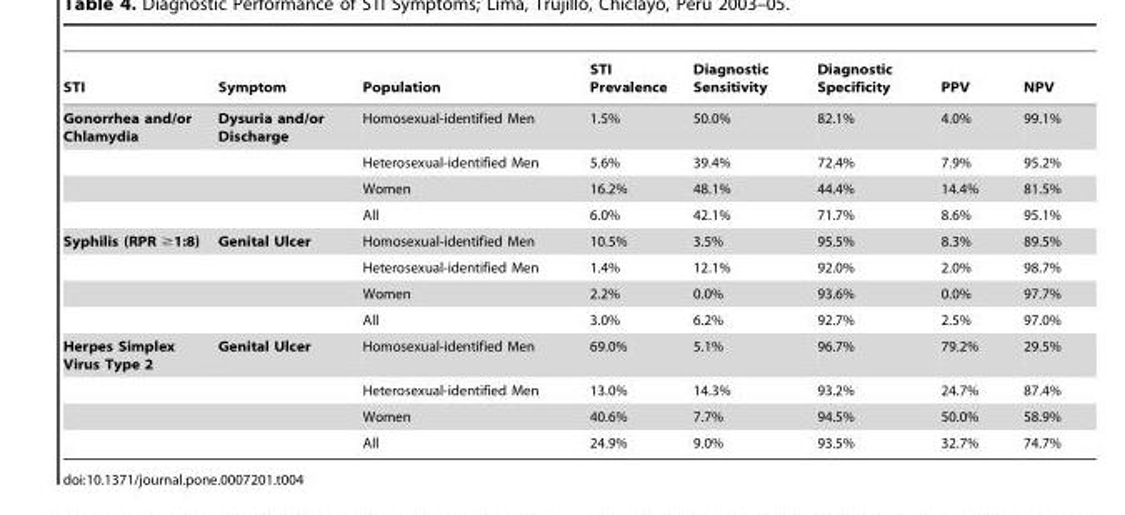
<table><thead><tr><td>STI</td><td>Symptom</td><td>Population</td><td>STI Prevalence</td><td>Diagnostic Sensitivity</td><td>Diagnostic Specificity</td><td>PPV</td><td>NPV</td></tr></thead><tbody><tr><td rowspan="4">Gonorrhea and/or Chlamydia</td><td>Dysuria and/or Discharge</td><td>Homosexual-identified Men</td><td>1.5%</td><td>50.0%</td><td>82.1%</td><td>4.0%</td><td>99.1%</td></tr><tr><td></td><td>Heterosexual-identified Men</td><td>5.6%</td><td>39.4%</td><td>72.4%</td><td>7.9%</td><td>95.2%</td></tr><tr><td></td><td>Women</td><td>16.2%</td><td>48.1%</td><td>44.4%</td><td>14.4%</td><td>81.5%</td></tr><tr><td></td><td>All</td><td>6.0%</td><td>42.1%</td><td>71.7%</td><td>8.6%</td><td>95.1%</td></tr><tr><td rowspan="4">Syphilis (RPR ≥1:8)</td><td>Genital Ulcer</td><td>Homosexual-identified Men</td><td>10.5%</td><td>3.5%</td><td>95.5%</td><td>8.3%</td><td>89.5%</td></tr><tr><td></td><td>Heterosexual-identified Men</td><td>1.4%</td><td>12.1%</td><td>92.0%</td><td>2.0%</td><td>98.7%</td></tr><tr><td></td><td>Women</td><td>2.2%</td><td>0.0%</td><td>93.6%</td><td>0.0%</td><td>97.7%</td></tr><tr><td></td><td>All</td><td>3.0%</td><td>6.2%</td><td>92.7%</td><td>2.5%</td><td>97.0%</td></tr><tr><td rowspan="4">Herpes Simplex Virus Type 2</td><td>Genital Ulcer</td><td>Homosexual-identified Men</td><td>69.0%</td><td>5.1%</td><td>96.7%</td><td>79.2%</td><td>29.5%</td></tr><tr><td></td><td>Heterosexual-identified Men</td><td>13.0%</td><td>14.3%</td><td>93.2%</td><td>24.7%</td><td>87.4%</td></tr><tr><td></td><td>Women</td><td>40.6%</td><td>7.7%</td><td>94.5%</td><td>50.0%</td><td>58.9%</td></tr><tr><td></td><td>All</td><td>24.9%</td><td>9.0%</td><td>93.5%</td><td>32.7%</td><td>74.7%</td></tr></tbody></table>